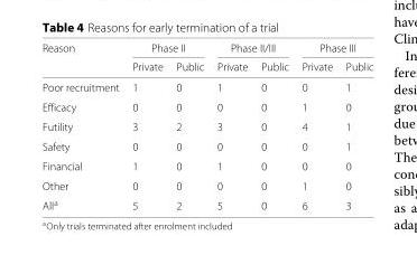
<table><thead><tr><td rowspan="2">Reason</td><td colspan="2">Phase II</td><td colspan="2">Phase II/III</td><td colspan="2">Phase III</td></tr><tr><td>Private</td><td>Public</td><td>Private</td><td>Public</td><td>Private</td><td>Public</td></tr></thead><tbody><tr><td>Poor recruitment</td><td>1</td><td>0</td><td>1</td><td>0</td><td>0</td><td>1</td></tr><tr><td>Efficacy</td><td>0</td><td>0</td><td>0</td><td>0</td><td>1</td><td>0</td></tr><tr><td>Futility</td><td>3</td><td>2</td><td>3</td><td>0</td><td>4</td><td>1</td></tr><tr><td>Safety</td><td>0</td><td>0</td><td>0</td><td>0</td><td>0</td><td>1</td></tr><tr><td>Financial</td><td>1</td><td>0</td><td>1</td><td>0</td><td>0</td><td>0</td></tr><tr><td>Other</td><td>0</td><td>0</td><td>0</td><td>0</td><td>1</td><td>0</td></tr><tr><td>All<sup>a</sup></td><td>5</td><td>2</td><td>5</td><td>0</td><td>6</td><td>3</td></tr></tbody></table>